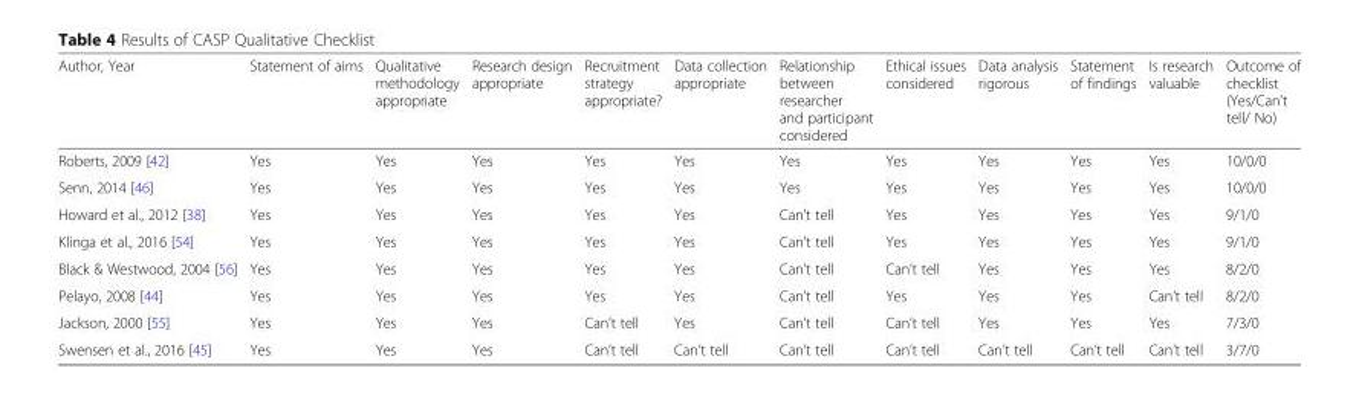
<table><thead><tr><td>Author, Year</td><td>Statement of aims</td><td>Qualitative methodology appropriate</td><td>Research design appropriate</td><td>Recruitment strategy appropriate?</td><td>Data collection appropriate</td><td>Relationship between researcher and participant considered</td><td>Ethical issues considered</td><td>Data analysis rigorous</td><td>Statement of findings</td><td>Is research valuable</td><td>Outcome of checklist (Yes/Can’t tell/ No)</td></tr></thead><tbody><tr><td>Roberts, 2009 [42]</td><td>Yes</td><td>Yes</td><td>Yes</td><td>Yes</td><td>Yes</td><td>Yes</td><td>Yes</td><td>Yes</td><td>Yes</td><td>Yes</td><td>10/0/0</td></tr><tr><td>Senn, 2014 [46]</td><td>Yes</td><td>Yes</td><td>Yes</td><td>Yes</td><td>Yes</td><td>Yes</td><td>Yes</td><td>Yes</td><td>Yes</td><td>Yes</td><td>10/0/0</td></tr><tr><td>Howard et al., 2012 [38]</td><td>Yes</td><td>Yes</td><td>Yes</td><td>Yes</td><td>Yes</td><td>Can’t tell</td><td>Yes</td><td>Yes</td><td>Yes</td><td>Yes</td><td>9/1/0</td></tr><tr><td>Klinga et al., 2016 [54]</td><td>Yes</td><td>Yes</td><td>Yes</td><td>Yes</td><td>Yes</td><td>Can’t tell</td><td>Yes</td><td>Yes</td><td>Yes</td><td>Yes</td><td>9/1/0</td></tr><tr><td>Black &amp; Westwood, 2004 [56]</td><td>Yes</td><td>Yes</td><td>Yes</td><td>Yes</td><td>Yes</td><td>Can’t tell</td><td>Can’t tell</td><td>Yes</td><td>Yes</td><td>Yes</td><td>8/2/0</td></tr><tr><td>Pelayo, 2008 [44]</td><td>Yes</td><td>Yes</td><td>Yes</td><td>Yes</td><td>Yes</td><td>Can’t tell</td><td>Yes</td><td>Yes</td><td>Yes</td><td>Can’t tell</td><td>8/2/0</td></tr><tr><td>Jackson, 2000 [55]</td><td>Yes</td><td>Yes</td><td>Yes</td><td>Can’t tell</td><td>Yes</td><td>Can’t tell</td><td>Can’t tell</td><td>Yes</td><td>Yes</td><td>Yes</td><td>7/3/0</td></tr><tr><td>Swensen et al., 2016 [45]</td><td>Yes</td><td>Yes</td><td>Yes</td><td>Can’t tell</td><td>Can’t tell</td><td>Can’t tell</td><td>Can’t tell</td><td>Can’t tell</td><td>Can’t tell</td><td>Can’t tell</td><td>3/7/0</td></tr></tbody></table>